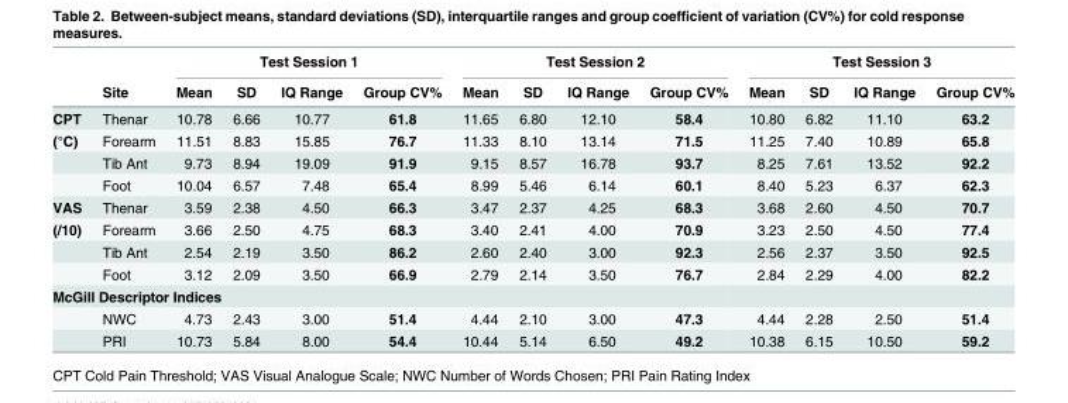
<table><thead><tr><td rowspan="2"></td><td rowspan="2">Site</td><td colspan="4">Test Session 1</td><td colspan="4">Test Session 2</td><td colspan="4">Test Session 3</td></tr><tr><td>Mean</td><td>SD</td><td>IQ Range</td><td>Group CV%</td><td>Mean</td><td>SD</td><td>IQ Range</td><td>Group CV%</td><td>Mean</td><td>SD</td><td>IQ Range</td><td>Group CV%</td></tr></thead><tbody><tr><td>CPT</td><td>Thenar</td><td>10.78</td><td>6.66</td><td>10.77</td><td>61.8</td><td>11.65</td><td>6.80</td><td>12.10</td><td>58.4</td><td>10.80</td><td>6.82</td><td>11.10</td><td>63.2</td></tr><tr><td rowspan="3">(°C)</td><td>Forearm</td><td>11.51</td><td>8.83</td><td>15.85</td><td>76.7</td><td>11.33</td><td>8.10</td><td>13.14</td><td>71.5</td><td>11.25</td><td>7.40</td><td>10.89</td><td>65.8</td></tr><tr><td>Tib Ant</td><td>9.73</td><td>8.94</td><td>19.09</td><td>91.9</td><td>9.15</td><td>8.57</td><td>16.78</td><td>93.7</td><td>8.25</td><td>7.61</td><td>13.52</td><td>92.2</td></tr><tr><td>Foot</td><td>10.04</td><td>6.57</td><td>7.48</td><td>65.4</td><td>8.99</td><td>5.46</td><td>6.14</td><td>60.1</td><td>8.40</td><td>5.23</td><td>6.37</td><td>62.3</td></tr><tr><td>VAS</td><td>Thenar</td><td>3.59</td><td>2.38</td><td>4.50</td><td>66.3</td><td>3.47</td><td>2.37</td><td>4.25</td><td>68.3</td><td>3.68</td><td>2.60</td><td>4.50</td><td>70.7</td></tr><tr><td rowspan="3">(/10)</td><td>Forearm</td><td>3.66</td><td>2.50</td><td>4.75</td><td>68.3</td><td>3.40</td><td>2.41</td><td>4.00</td><td>70.9</td><td>3.23</td><td>2.50</td><td>4.50</td><td>77.4</td></tr><tr><td>Tib Ant</td><td>2.54</td><td>2.19</td><td>3.50</td><td>86.2</td><td>2.60</td><td>2.40</td><td>3.00</td><td>92.3</td><td>2.56</td><td>2.37</td><td>3.50</td><td>92.5</td></tr><tr><td>Foot</td><td>3.12</td><td>2.09</td><td>3.50</td><td>66.9</td><td>2.79</td><td>2.14</td><td>3.50</td><td>76.7</td><td>2.84</td><td>2.29</td><td>4.00</td><td>82.2</td></tr><tr><td colspan="14">McGill Descriptor Indices</td></tr><tr><td></td><td>NWC</td><td>4.73</td><td>2.43</td><td>3.00</td><td>51.4</td><td>4.44</td><td>2.10</td><td>3.00</td><td>47.3</td><td>4.44</td><td>2.28</td><td>2.50</td><td>51.4</td></tr><tr><td></td><td>PRI</td><td>10.73</td><td>5.84</td><td>8.00</td><td>54.4</td><td>10.44</td><td>5.14</td><td>6.50</td><td>49.2</td><td>10.38</td><td>6.15</td><td>10.50</td><td>59.2</td></tr></tbody></table>